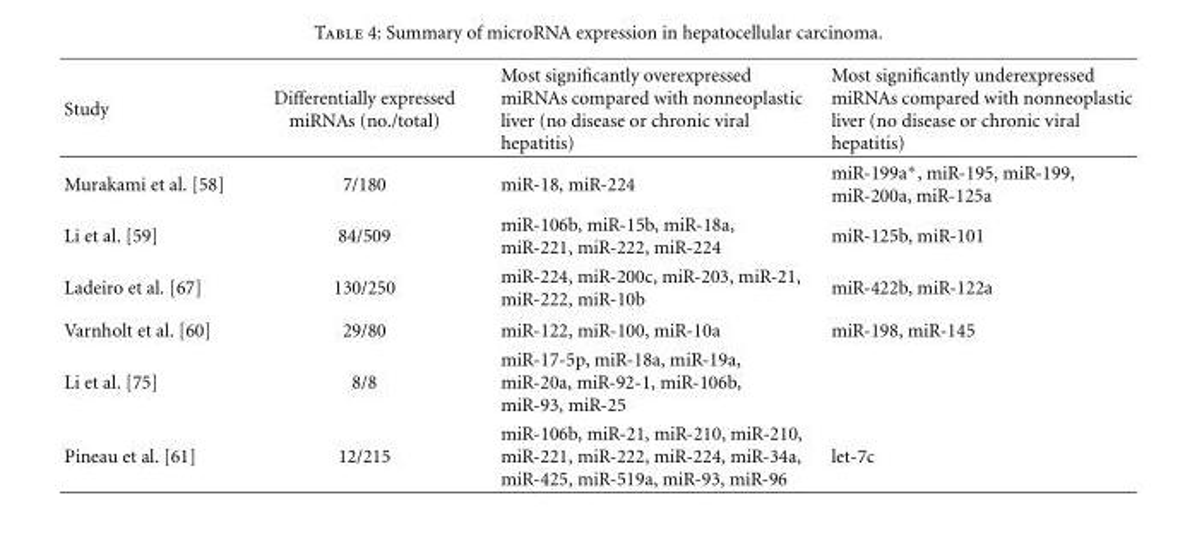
<table><thead><tr><td>Study</td><td>Differentially expressed miRNAs (no./total)</td><td>Most significantly overexpressed miRNAs compared with nonneoplastic liver (no disease or chronic viral hepatitis)</td><td>Most significantly underexpressed miRNAs compared with nonneoplastic liver (no disease or chronic viral hepatitis)</td></tr></thead><tbody><tr><td>Murakami et al. [58]</td><td>7/180</td><td>miR-18, miR-224</td><td>miR-199a∗, miR-195, miR-199, miR-200a, miR-125a</td></tr><tr><td>Li et al. [59]</td><td>84/509</td><td>miR-106b, miR-15b, miR-18a, miR-221, miR-222, miR-224</td><td>miR-125b, miR-101</td></tr><tr><td>Ladeiro et al. [67]</td><td>130/250</td><td>miR-224, miR-200c, miR-203, miR-21, miR-222, miR-10b</td><td>miR-422b, miR-122a</td></tr><tr><td>Varnholt et al. [60]</td><td>29/80</td><td>miR-122, miR-100, miR-10a</td><td>miR-198, miR-145</td></tr><tr><td>Li et al. [75]</td><td>8/8</td><td>miR-17-5p, miR-18a, miR-19a, miR-20a, miR-92-1, miR-106b, miR-93, miR-25</td><td></td></tr><tr><td>Pineau et al. [61]</td><td>12/215</td><td>miR-106b, miR-21, miR-210, miR-210, miR-221, miR-222, miR-224, miR-34a, miR-425, miR-519a, miR-93, miR-96</td><td>let-7c</td></tr></tbody></table>